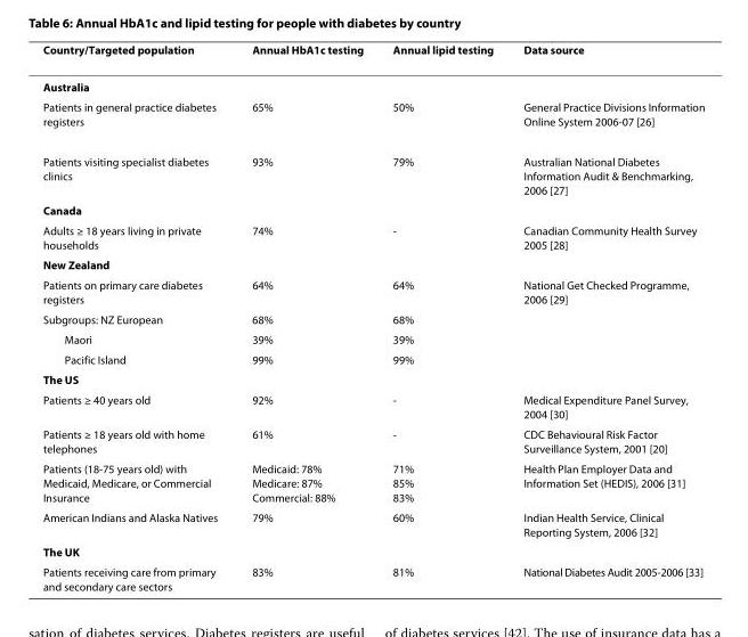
<table><thead><tr><td>Country/Targeted population</td><td>Annual HbA1c testing</td><td>Annual lipid testing</td><td>Data source</td></tr></thead><tbody><tr><td colspan="4">Australia</td></tr><tr><td>Patients in general practice diabetes registers</td><td>65%</td><td>50%</td><td>General Practice Divisions Information Online System 2006-07 [26]</td></tr><tr><td>Patients visiting specialist diabetes clinics</td><td>93%</td><td>79%</td><td>Australian National Diabetes Information Audit &amp; Benchmarking, 2006 [27]</td></tr><tr><td colspan="4">Canada</td></tr><tr><td>Adults ≥ 18 years living in private households</td><td>74%</td><td>-</td><td>Canadian Community Health Survey 2005 [28]</td></tr><tr><td colspan="4">New Zealand</td></tr><tr><td>Patients on primary care diabetes registers</td><td>64%</td><td>64%</td><td>National Get Checked Programme, 2006 [29]</td></tr><tr><td>Subgroups: NZ European</td><td>68%</td><td>68%</td><td></td></tr><tr><td>Maori</td><td>39%</td><td>39%</td><td></td></tr><tr><td>Pacific Island</td><td>99%</td><td>99%</td><td></td></tr><tr><td colspan="4">The US</td></tr><tr><td>Patients ≥ 40 years old</td><td>92%</td><td>-</td><td>Medical Expenditure Panel Survey, 2004 [30]</td></tr><tr><td>Patients ≥ 18 years old with home telephones</td><td>61%</td><td>-</td><td>CDC Behavioural Risk Factor Surveillance System, 2001 [20]</td></tr><tr><td>Patients (18-75 years old) with Medicaid, Medicare, or Commercial Insurance</td><td>Medicaid: 78% Medicare: 87% Commercial: 88%</td><td>71% 85% 83%</td><td>Health Plan Employer Data and Information Set (HEDIS), 2006 [31]</td></tr><tr><td>American Indians and Alaska Natives</td><td>79%</td><td>60%</td><td>Indian Health Service, Clinical Reporting System, 2006 [32]</td></tr><tr><td colspan="4">The UK</td></tr><tr><td>Patients receiving care from primary and secondary care sectors</td><td>83%</td><td>81%</td><td>National Diabetes Audit 2005-2006 [33]</td></tr></tbody></table>